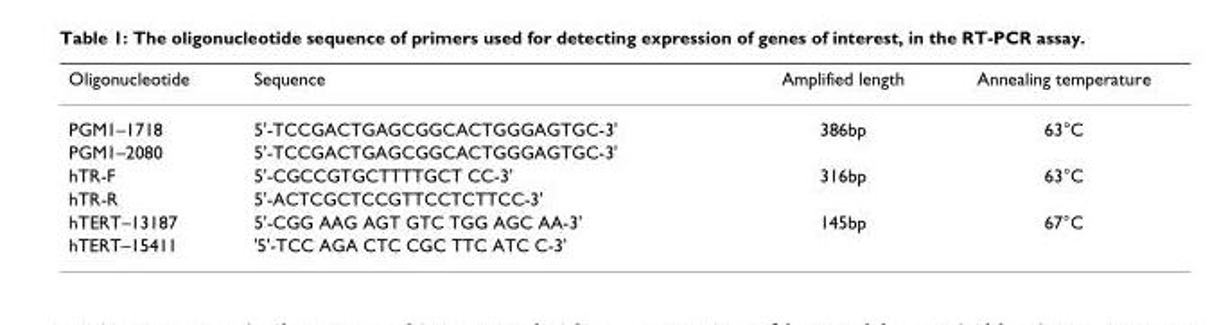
<table><thead><tr><td>Oligonucleotide</td><td>Sequence</td><td>Amplified length</td><td>Annealing temperature</td></tr></thead><tbody><tr><td>PGM1–1718</td><td>5&#x27;-TCCGACTGAGCGGCACTGGGAGTGC-3&#x27;</td><td>386bp</td><td>63°C</td></tr><tr><td>PGM1–2080</td><td>5&#x27;-TCCGACTGAGCGGCACTGGGAGTGC-3&#x27;</td><td></td><td></td></tr><tr><td>hTR-F</td><td>5&#x27;-CGCCGTGCTTTTGCT CC-3&#x27;</td><td>316bp</td><td>63°C</td></tr><tr><td>hTR-R</td><td>5&#x27;-ACTCGCTCCGTTCCTCTTCC-3&#x27;</td><td></td><td></td></tr><tr><td>hTERT–13187</td><td>5&#x27;-CGG AAG AGT GTC TGG AGC AA-3&#x27;</td><td>145bp</td><td>67°C</td></tr><tr><td>hTERT–15411</td><td>&#x27;5&#x27;-TCC AGA CTC CGC TTC ATC C-3&#x27;</td><td></td><td></td></tr></tbody></table>